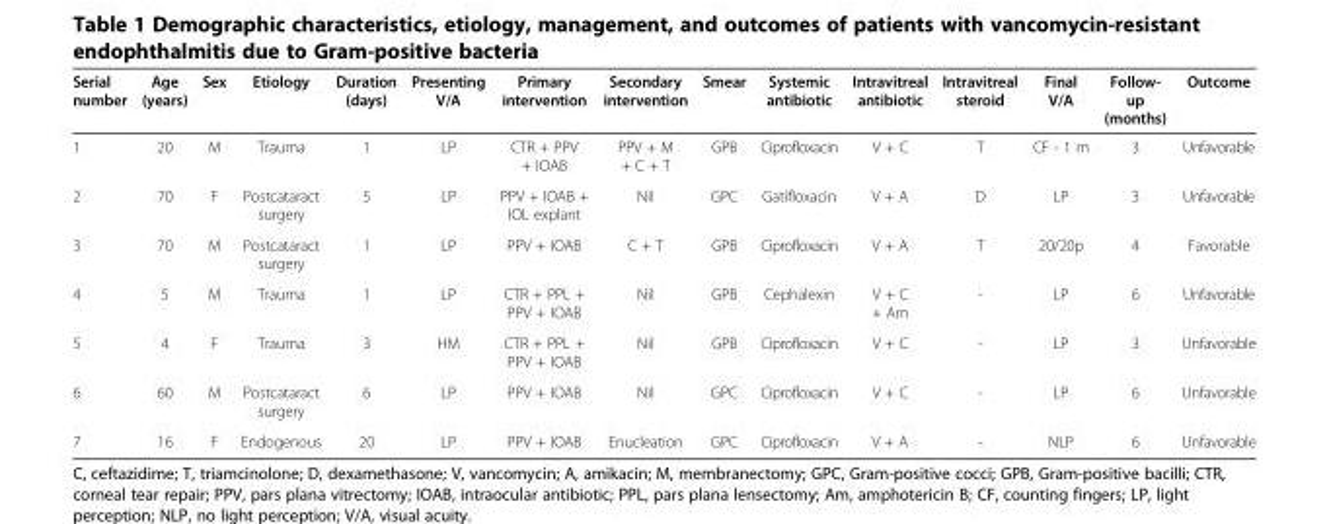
<table><thead><tr><td>Serial number</td><td>Age (years)</td><td>Sex</td><td>Etiology</td><td>Duration (days)</td><td>Presenting V/A</td><td>Primary intervention</td><td>Secondary intervention</td><td>Smear</td><td>Systemic antibiotic</td><td>Intravitreal antibiotic</td><td>Intravitreal steroid</td><td>Final V/A</td><td>Follow- up (months)</td><td>Outcome</td></tr></thead><tbody><tr><td>1</td><td>20</td><td>M</td><td>Trauma</td><td>1</td><td>LP</td><td>CTR + PPV + IOAB</td><td>PPV + M + C + T</td><td>GPB</td><td>Ciprofloxacin</td><td>V + C</td><td>T</td><td>CF - 1 m</td><td>3</td><td>Unfavorable</td></tr><tr><td>2</td><td>70</td><td>F</td><td>Postcataract surgery</td><td>5</td><td>LP</td><td>PPV + IOAB + IOL explant</td><td>Nil</td><td>GPC</td><td>Gatifloxacin</td><td>V + A</td><td>D</td><td>LP</td><td>3</td><td>Unfavorable</td></tr><tr><td>3</td><td>70</td><td>M</td><td>Postcataract surgery</td><td>1</td><td>LP</td><td>PPV + IOAB</td><td>C + T</td><td>GPB</td><td>Ciprofloxacin</td><td>V + A</td><td>T</td><td>20/20p</td><td>4</td><td>Favorable</td></tr><tr><td>4</td><td>5</td><td>M</td><td>Trauma</td><td>1</td><td>LP</td><td>CTR + PPL + PPV + IOAB</td><td>Nil</td><td>GPB</td><td>Cephalexin</td><td>V + C + Am</td><td>-</td><td>LP</td><td>6</td><td>Unfavorable</td></tr><tr><td>5</td><td>4</td><td>F</td><td>Trauma</td><td>3</td><td>HM</td><td>CTR + PPL + PPV + IOAB</td><td>Nil</td><td>GPB</td><td>Ciprofloxacin</td><td>V + C</td><td>-</td><td>LP</td><td>3</td><td>Unfavorable</td></tr><tr><td>6</td><td>60</td><td>M</td><td>Postcataract surgery</td><td>6</td><td>LP</td><td>PPV + IOAB</td><td>Nil</td><td>GPC</td><td>Ciprofloxacin</td><td>V + C</td><td>-</td><td>LP</td><td>6</td><td>Unfavorable</td></tr><tr><td>7</td><td>16</td><td>F</td><td>Endogenous</td><td>20</td><td>LP</td><td>PPV + IOAB</td><td>Enucleation</td><td>GPC</td><td>Ciprofloxacin</td><td>V + A</td><td>-</td><td>NLP</td><td>6</td><td>Unfavorable</td></tr></tbody></table>